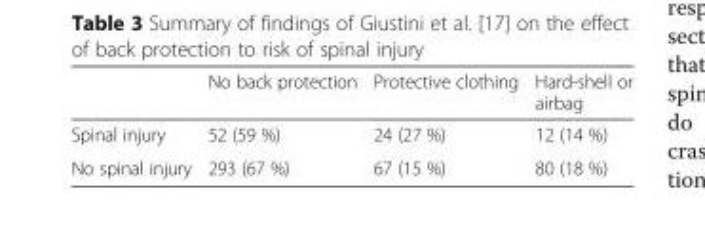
<table><thead><tr><td></td><td>No back protection</td><td>Protective clothing</td><td>Hard-shell or airbag</td></tr></thead><tbody><tr><td>Spinal injury</td><td>52 (59 %)</td><td>24 (27 %)</td><td>12 (14 %)</td></tr><tr><td>No spinal injury</td><td>293 (67 %)</td><td>67 (15 %)</td><td>80 (18 %)</td></tr></tbody></table>